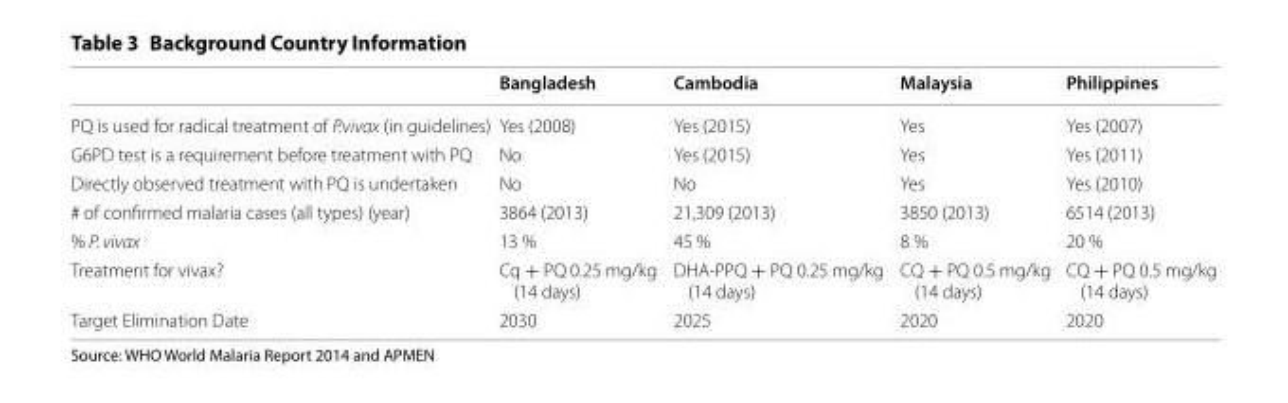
<table><thead><tr><td></td><td>Bangladesh</td><td>Cambodia</td><td>Malaysia</td><td>Philippines</td></tr></thead><tbody><tr><td>PQ is used for radical treatment of P.vivax (in guidelines)</td><td>Yes (2008)</td><td>Yes (2015)</td><td>Yes</td><td>Yes (2007)</td></tr><tr><td>G6PD test is a requirement before treatment with PQ</td><td>No</td><td>Yes (2015)</td><td>Yes</td><td>Yes (2011)</td></tr><tr><td>Directly observed treatment with PQ is undertaken</td><td>No</td><td>No</td><td>Yes</td><td>Yes (2010)</td></tr><tr><td># of confirmed malaria cases (all types) (year)</td><td>3864 (2013)</td><td>21,309 (2013)</td><td>3850 (2013)</td><td>6514 (2013)</td></tr><tr><td>% P. vivax</td><td>13 %</td><td>45 %</td><td>8 %</td><td>20 %</td></tr><tr><td>Treatment for vivax?</td><td>Cq + PQ 0.25 mg/kg (14 days)</td><td>DHA‑PPQ + PQ 0.25 mg/kg (14 days)</td><td>CQ + PQ 0.5 mg/kg (14 days)</td><td>CQ + PQ 0.5 mg/kg (14 days)</td></tr><tr><td>Target Elimination Date</td><td>2030</td><td>2025</td><td>2020</td><td>2020</td></tr></tbody></table>